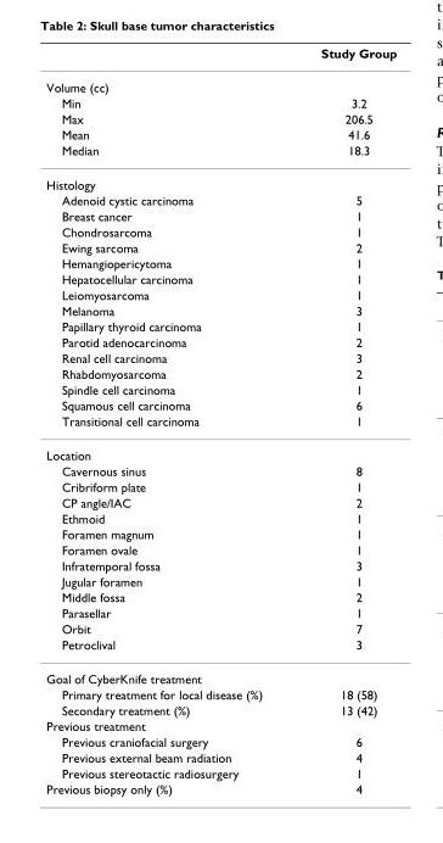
<table><thead><tr><td></td><td>Study Group</td></tr></thead><tbody><tr><td colspan="2">Volume (cc)</td></tr><tr><td>Min</td><td>3.2</td></tr><tr><td>Max</td><td>206.5</td></tr><tr><td>Mean</td><td>41.6</td></tr><tr><td>Median</td><td>18.3</td></tr><tr><td colspan="2">Histology</td></tr><tr><td>Adenoid cystic carcinoma</td><td>5</td></tr><tr><td>Breast cancer</td><td>1</td></tr><tr><td>Chondrosarcoma</td><td>1</td></tr><tr><td>Ewing sarcoma</td><td>2</td></tr><tr><td>Hemangiopericytoma</td><td>1</td></tr><tr><td>Hepatocellular carcinoma</td><td>1</td></tr><tr><td>Leiomyosarcoma</td><td>1</td></tr><tr><td>Melanoma</td><td>3</td></tr><tr><td>Papillary thyroid carcinoma</td><td>1</td></tr><tr><td>Parotid adenocarcinoma</td><td>2</td></tr><tr><td>Renal cell carcinoma</td><td>3</td></tr><tr><td>Rhabdomyosarcoma</td><td>2</td></tr><tr><td>Spindle cell carcinoma</td><td>1</td></tr><tr><td>Squamous cell carcinoma</td><td>6</td></tr><tr><td>Transitional cell carcinoma</td><td>1</td></tr><tr><td colspan="2">Location</td></tr><tr><td>Cavernous sinus</td><td>8</td></tr><tr><td>Cribriform plate</td><td>1</td></tr><tr><td>CP angle/IAC</td><td>2</td></tr><tr><td>Ethmoid</td><td>1</td></tr><tr><td>Foramen magnum</td><td>1</td></tr><tr><td>Foramen ovale</td><td>1</td></tr><tr><td>Infratemporal fossa</td><td>3</td></tr><tr><td>Jugular foramen</td><td>1</td></tr><tr><td>Middle fossa</td><td>2</td></tr><tr><td>Parasellar</td><td>1</td></tr><tr><td>Orbit</td><td>7</td></tr><tr><td>Petroclival</td><td>3</td></tr><tr><td colspan="2">Goal of CyberKnife treatment</td></tr><tr><td>Primary treatment for local disease (%)</td><td>18 (58)</td></tr><tr><td>Secondary treatment (%)</td><td>13 (42)</td></tr><tr><td colspan="2">Previous treatment</td></tr><tr><td>Previous craniofacial surgery</td><td>6</td></tr><tr><td>Previous external beam radiation</td><td>4</td></tr><tr><td>Previous stereotactic radiosurgery</td><td>1</td></tr><tr><td>Previous biopsy only (%)</td><td>4</td></tr></tbody></table>